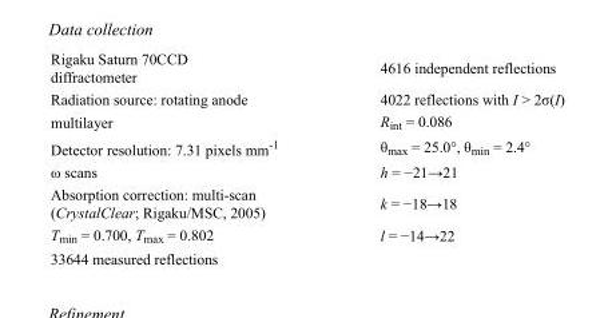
<table><tbody><tr><td>Rigaku Saturn 70CCD diffractometer</td><td>4616 independent reflections</td></tr><tr><td>Radiation source: rotating anode</td><td>4022 reflections with I &gt; 2σ(I)</td></tr><tr><td>multilayer</td><td>R<sub>int</sub> = 0.086</td></tr><tr><td>Detector resolution: 7.31 pixels mm<sup>-1</sup></td><td>θ<sub>max</sub> = 25.0°, θ<sub>min</sub> = 2.4°</td></tr><tr><td>ω scans</td><td>h = −21→21</td></tr><tr><td>Absorption correction: multi-scan (CrystalClear; Rigaku/MSC, 2005)</td><td>k = −18→18</td></tr><tr><td>T<sub>min</sub> = 0.700, T<sub>max</sub> = 0.802</td><td>l = −14→22</td></tr><tr><td>33644 measured reflections</td><td></td></tr></tbody></table>